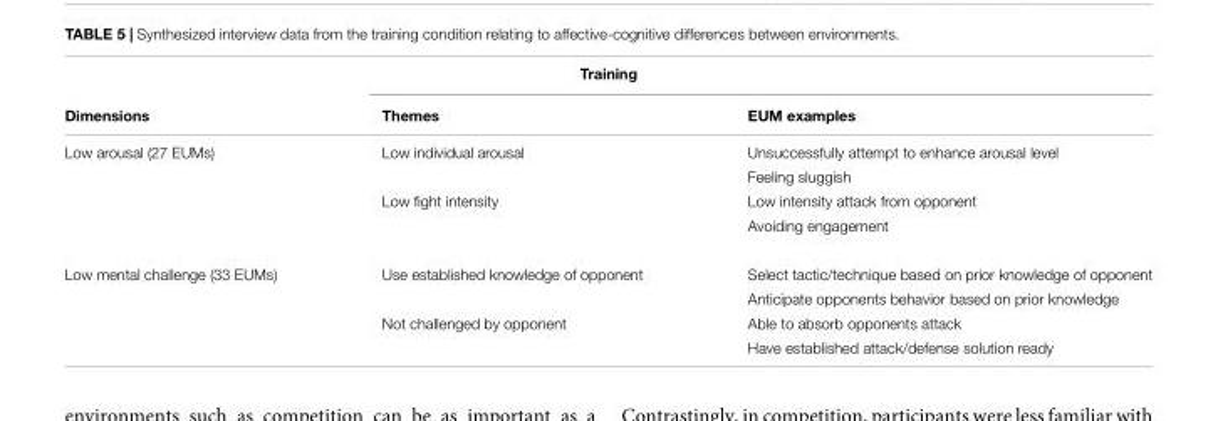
<table><thead><tr><td rowspan="2">Dimensions</td><td colspan="2">Training</td></tr><tr><td>Themes</td><td>EUM examples</td></tr></thead><tbody><tr><td rowspan="4">Low arousal (27 EUMs)</td><td>Low individual arousal</td><td>Unsuccessfully attempt to enhance arousal level</td></tr><tr><td></td><td>Feeling sluggish</td></tr><tr><td>Low fight intensity</td><td>Low intensity attack from opponent</td></tr><tr><td></td><td>Avoiding engagement</td></tr><tr><td rowspan="4">Low mental challenge (33 EUMs)</td><td>Use established knowledge of opponent</td><td>Select tactic/technique based on prior knowledge of opponent</td></tr><tr><td></td><td>Anticipate opponents behavior based on prior knowledge</td></tr><tr><td>Not challenged by opponent</td><td>Able to absorb opponents attack</td></tr><tr><td></td><td>Have established attack/defense solution ready</td></tr></tbody></table>